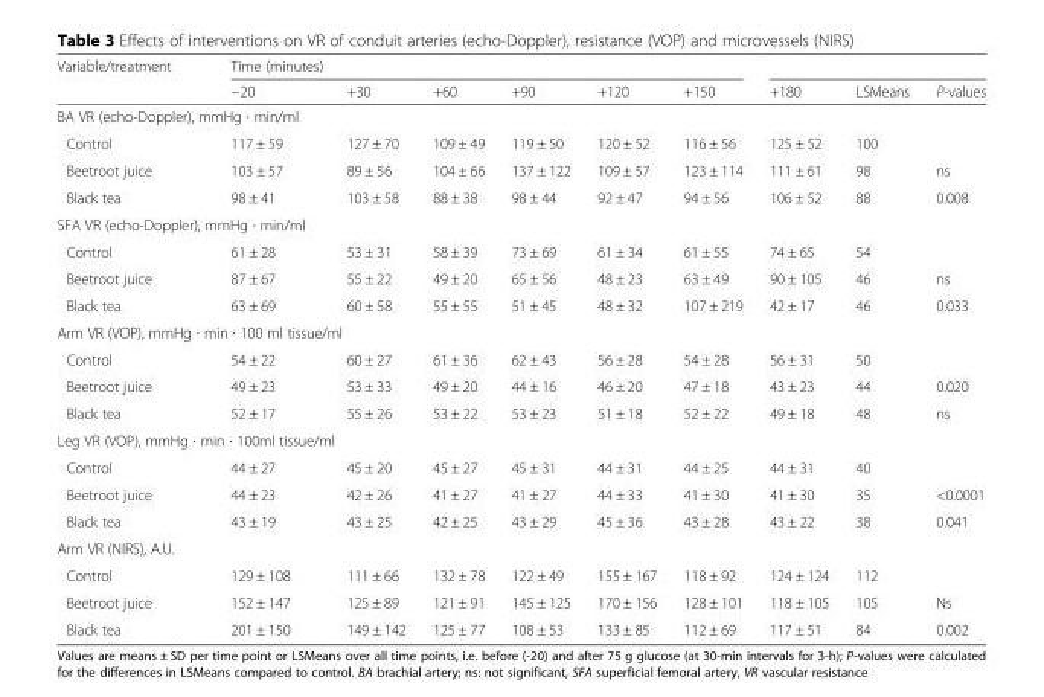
<table><thead><tr><td rowspan="2">Variable/treatment</td><td colspan="6">Time (minutes)</td><td rowspan="2">+180</td><td rowspan="2">LSMeans</td><td rowspan="2">P-values</td></tr><tr><td>−20</td><td>+30</td><td>+60</td><td>+90</td><td>+120</td><td>+150</td></tr></thead><tbody><tr><td colspan="10">BA VR (echo-Doppler), mmHg ∙ min/ml</td></tr><tr><td>Control</td><td>117 ± 59</td><td>127 ± 70</td><td>109 ± 49</td><td>119 ± 50</td><td>120 ± 52</td><td>116 ± 56</td><td>125 ± 52</td><td>100</td><td></td></tr><tr><td>Beetroot juice</td><td>103 ± 57</td><td>89 ± 56</td><td>104 ± 66</td><td>137 ± 122</td><td>109 ± 57</td><td>123 ± 114</td><td>111 ± 61</td><td>98</td><td>ns</td></tr><tr><td>Black tea</td><td>98 ± 41</td><td>103 ± 58</td><td>88 ± 38</td><td>98 ± 44</td><td>92 ± 47</td><td>94 ± 56</td><td>106 ± 52</td><td>88</td><td>0.008</td></tr><tr><td colspan="10">SFA VR (echo-Doppler), mmHg ∙ min/ml</td></tr><tr><td>Control</td><td>61 ± 28</td><td>53 ± 31</td><td>58 ± 39</td><td>73 ± 69</td><td>61 ± 34</td><td>61 ± 55</td><td>74 ± 65</td><td>54</td><td></td></tr><tr><td>Beetroot juice</td><td>87 ± 67</td><td>55 ± 22</td><td>49 ± 20</td><td>65 ± 56</td><td>48 ± 23</td><td>63 ± 49</td><td>90 ± 105</td><td>46</td><td>ns</td></tr><tr><td>Black tea</td><td>63 ± 69</td><td>60 ± 58</td><td>55 ± 55</td><td>51 ± 45</td><td>48 ± 32</td><td>107 ± 219</td><td>42 ± 17</td><td>46</td><td>0.033</td></tr><tr><td colspan="10">Arm VR (VOP), mmHg ∙ min ∙ 100 ml tissue/ml</td></tr><tr><td>Control</td><td>54 ± 22</td><td>60 ± 27</td><td>61 ± 36</td><td>62 ± 43</td><td>56 ± 28</td><td>54 ± 28</td><td>56 ± 31</td><td>50</td><td></td></tr><tr><td>Beetroot juice</td><td>49 ± 23</td><td>53 ± 33</td><td>49 ± 20</td><td>44 ± 16</td><td>46 ± 20</td><td>47 ± 18</td><td>43 ± 23</td><td>44</td><td>0.020</td></tr><tr><td>Black tea</td><td>52 ± 17</td><td>55 ± 26</td><td>53 ± 22</td><td>53 ± 23</td><td>51 ± 18</td><td>52 ± 22</td><td>49 ± 18</td><td>48</td><td>ns</td></tr><tr><td colspan="10">Leg VR (VOP), mmHg ∙ min ∙ 100ml tissue/ml</td></tr><tr><td>Control</td><td>44 ± 27</td><td>45 ± 20</td><td>45 ± 27</td><td>45 ± 31</td><td>44 ± 31</td><td>44 ± 25</td><td>44 ± 31</td><td>40</td><td></td></tr><tr><td>Beetroot juice</td><td>44 ± 23</td><td>42 ± 26</td><td>41 ± 27</td><td>41 ± 27</td><td>44 ± 33</td><td>41 ± 30</td><td>41 ± 30</td><td>35</td><td>&lt;0.0001</td></tr><tr><td>Black tea</td><td>43 ± 19</td><td>43 ± 25</td><td>42 ± 25</td><td>43 ± 29</td><td>45 ± 36</td><td>43 ± 28</td><td>43 ± 22</td><td>38</td><td>0.041</td></tr><tr><td colspan="10">Arm VR (NIRS), A.U.</td></tr><tr><td>Control</td><td>129 ± 108</td><td>111 ± 66</td><td>132 ± 78</td><td>122 ± 49</td><td>155 ± 167</td><td>118 ± 92</td><td>124 ± 124</td><td>112</td><td></td></tr><tr><td>Beetroot juice</td><td>152 ± 147</td><td>125 ± 89</td><td>121 ± 91</td><td>145 ± 125</td><td>170 ± 156</td><td>128 ± 101</td><td>118 ± 105</td><td>105</td><td>Ns</td></tr><tr><td>Black tea</td><td>201 ± 150</td><td>149 ± 142</td><td>125 ± 77</td><td>108 ± 53</td><td>133 ± 85</td><td>112 ± 69</td><td>117 ± 51</td><td>84</td><td>0.002</td></tr></tbody></table>